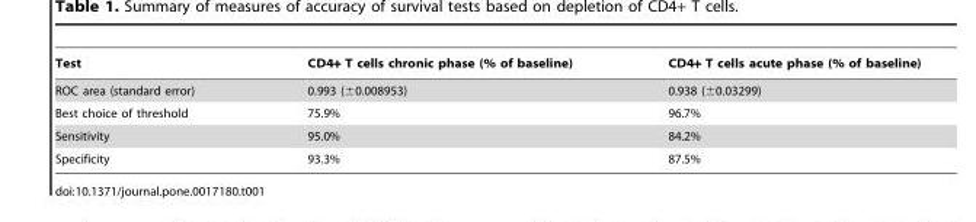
<table><thead><tr><td>Test</td><td>CD4+ T cells chronic phase (% of baseline)</td><td>CD4+ T cells acute phase (% of baseline)</td></tr></thead><tbody><tr><td>ROC area (standard error)</td><td>0.993 (±0.008953)</td><td>0.938 (±0.03299)</td></tr><tr><td>Best choice of threshold</td><td>75.9%</td><td>96.7%</td></tr><tr><td>Sensitivity</td><td>95.0%</td><td>84.2%</td></tr><tr><td>Specificity</td><td>93.3%</td><td>87.5%</td></tr></tbody></table>